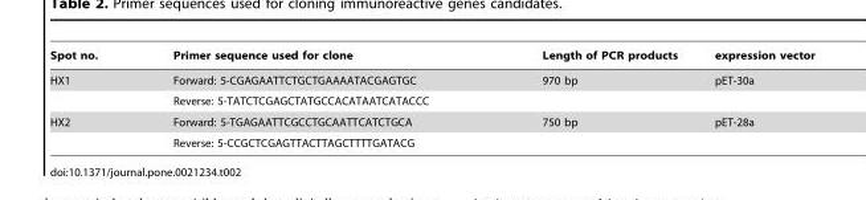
<table><thead><tr><td>Spot no.</td><td>Primer sequence used for clone</td><td>Length of PCR products</td><td>expression vector</td></tr></thead><tbody><tr><td rowspan="2">HX1</td><td>Forward: 5-CGAGAATTCTGCTGAAAATACGAGTGC</td><td>970 bp</td><td>pET-30a</td></tr><tr><td>Reverse: 5-TATCTCGAGCTATGCCACATAATCATACCC</td><td></td><td></td></tr><tr><td rowspan="2">HX2</td><td>Forward: 5-TGAGAATTCGCCTGCAATTCATCTGCA</td><td>750 bp</td><td>pET-28a</td></tr><tr><td>Reverse: 5-CCGCTCGAGTTACTTAGCTTTTGATACG</td><td></td><td></td></tr></tbody></table>